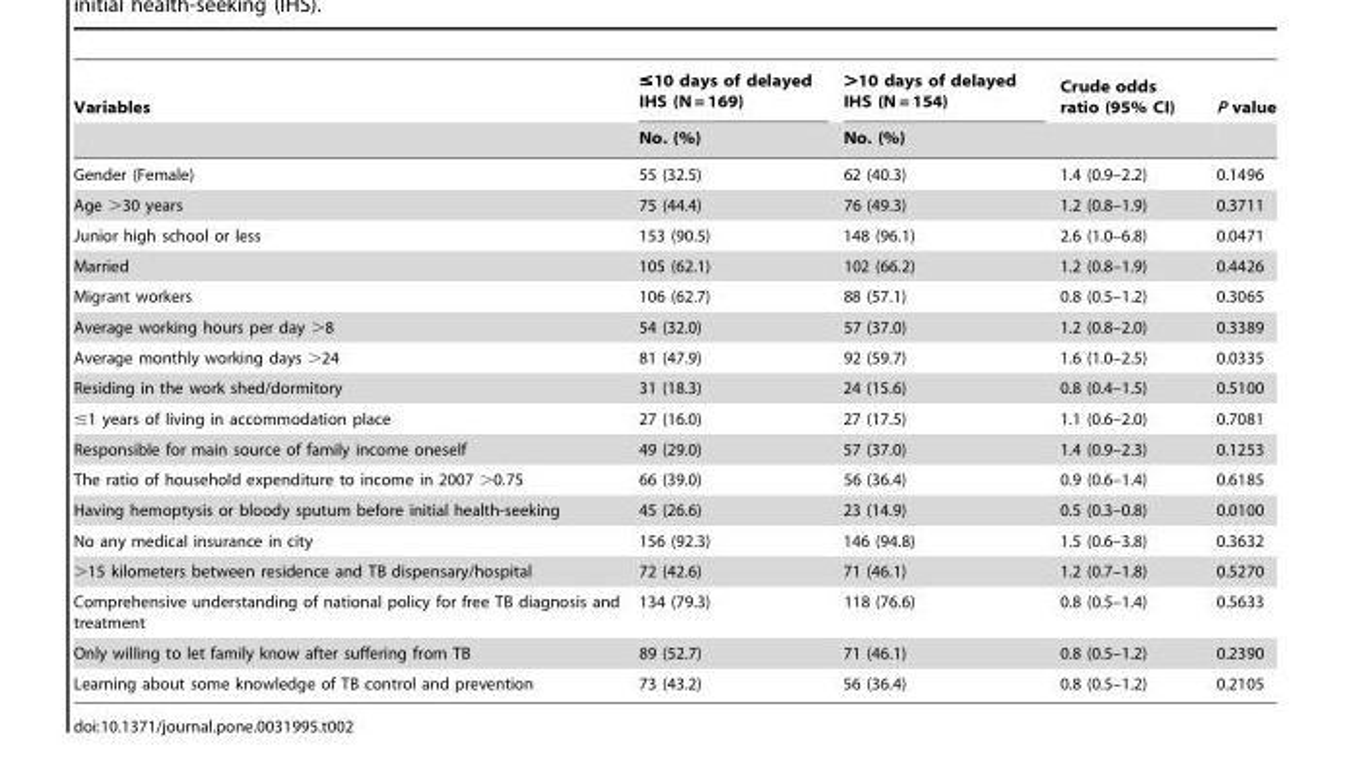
<table><thead><tr><td rowspan="2">Variables</td><td rowspan="2">≤10 days of delayed IHS (N = 169) No. (%)</td><td rowspan="2">&gt;10 days of delayed IHS (N = 154) No. (%)</td><td rowspan="2">Crude odds ratio (95% CI)</td><td rowspan="2">P value</td></tr><tr></tr></thead><tbody><tr><td>Gender (Female)</td><td>55 (32.5)</td><td>62 (40.3)</td><td>1.4 (0.9–2.2)</td><td>0.1496</td></tr><tr><td>Age &gt;30 years</td><td>75 (44.4)</td><td>76 (49.3)</td><td>1.2 (0.8–1.9)</td><td>0.3711</td></tr><tr><td>Junior high school or less</td><td>153 (90.5)</td><td>148 (96.1)</td><td>2.6 (1.0–6.8)</td><td>0.0471</td></tr><tr><td>Married</td><td>105 (62.1)</td><td>102 (66.2)</td><td>1.2 (0.8–1.9)</td><td>0.4426</td></tr><tr><td>Migrant workers</td><td>106 (62.7)</td><td>88 (57.1)</td><td>0.8 (0.5–1.2)</td><td>0.3065</td></tr><tr><td>Average working hours per day &gt;8</td><td>54 (32.0)</td><td>57 (37.0)</td><td>1.2 (0.8–2.0)</td><td>0.3389</td></tr><tr><td>Average monthly working days &gt;24</td><td>81 (47.9)</td><td>92 (59.7)</td><td>1.6 (1.0–2.5)</td><td>0.0335</td></tr><tr><td>Residing in the work shed/dormitory</td><td>31 (18.3)</td><td>24 (15.6)</td><td>0.8 (0.4–1.5)</td><td>0.5100</td></tr><tr><td>≤1 years of living in accommodation place</td><td>27 (16.0)</td><td>27 (17.5)</td><td>1.1 (0.6–2.0)</td><td>0.7081</td></tr><tr><td>Responsible for main source of family income oneself</td><td>49 (29.0)</td><td>57 (37.0)</td><td>1.4 (0.9–2.3)</td><td>0.1253</td></tr><tr><td>The ratio of household expenditure to income in 2007 &gt;0.75</td><td>66 (39.0)</td><td>56 (36.4)</td><td>0.9 (0.6–1.4)</td><td>0.6185</td></tr><tr><td>Having hemoptysis or bloody sputum before initial health-seeking</td><td>45 (26.6)</td><td>23 (14.9)</td><td>0.5 (0.3–0.8)</td><td>0.0100</td></tr><tr><td>No any medical insurance in city</td><td>156 (92.3)</td><td>146 (94.8)</td><td>1.5 (0.6–3.8)</td><td>0.3632</td></tr><tr><td>&gt;15 kilometers between residence and TB dispensary/hospital</td><td>72 (42.6)</td><td>71 (46.1)</td><td>1.2 (0.7–1.8)</td><td>0.5270</td></tr><tr><td>Comprehensive understanding of national policy for free TB diagnosis and treatment</td><td>134 (79.3)</td><td>118 (76.6)</td><td>0.8 (0.5–1.4)</td><td>0.5633</td></tr><tr><td>Only willing to let family know after suffering from TB</td><td>89 (52.7)</td><td>71 (46.1)</td><td>0.8 (0.5–1.2)</td><td>0.2390</td></tr><tr><td>Learning about some knowledge of TB control and prevention</td><td>73 (43.2)</td><td>56 (36.4)</td><td>0.8 (0.5–1.2)</td><td>0.2105</td></tr></tbody></table>